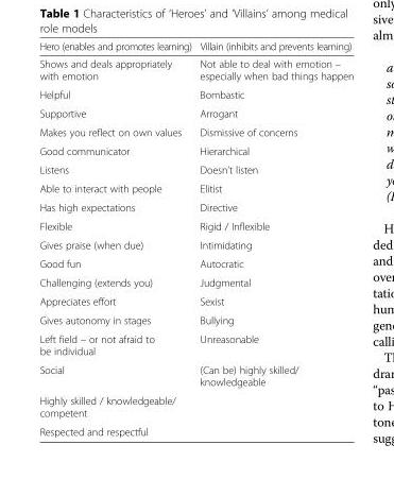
<table><thead><tr><td>Hero (enables and promotes learning)</td><td>Villain (inhibits and prevents learning)</td></tr></thead><tbody><tr><td>Shows and deals appropriately with emotion</td><td>Not able to deal with emotion – especially when bad things happen</td></tr><tr><td>Helpful</td><td>Bombastic</td></tr><tr><td>Supportive</td><td>Arrogant</td></tr><tr><td>Makes you reflect on own values</td><td>Dismissive of concerns</td></tr><tr><td>Good communicator</td><td>Hierarchical</td></tr><tr><td>Listens</td><td>Doesn’t listen</td></tr><tr><td>Able to interact with people</td><td>Elitist</td></tr><tr><td>Has high expectations</td><td>Directive</td></tr><tr><td>Flexible</td><td>Rigid / Inflexible</td></tr><tr><td>Gives praise (when due)</td><td>Intimidating</td></tr><tr><td>Good fun</td><td>Autocratic</td></tr><tr><td>Challenging (extends you)</td><td>Judgmental</td></tr><tr><td>Appreciates effort</td><td>Sexist</td></tr><tr><td>Gives autonomy in stages</td><td>Bullying</td></tr><tr><td>Left field – or not afraid to be individual</td><td>Unreasonable</td></tr><tr><td>Social</td><td>(Can be) highly skilled/ knowledgeable</td></tr><tr><td colspan="2">Highly skilled / knowledgeable/ competent</td></tr><tr><td>Respected and respectful</td><td></td></tr></tbody></table>